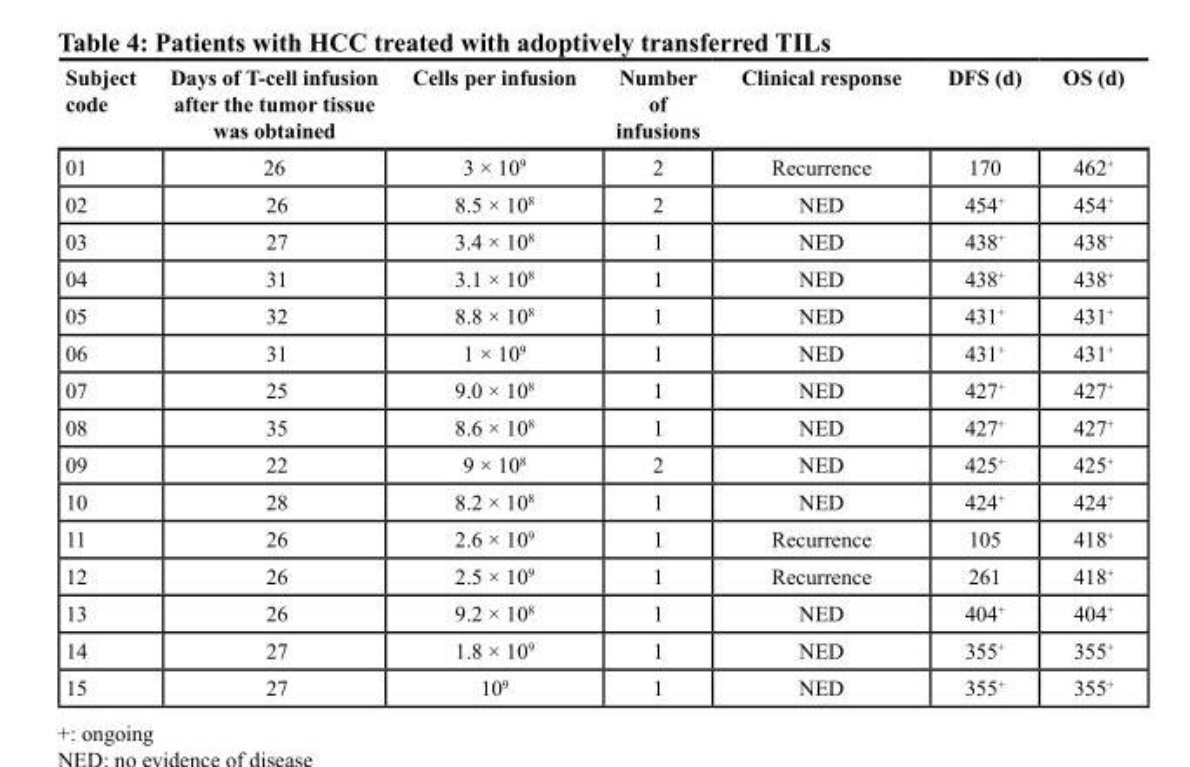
<table><thead><tr><td>Subject code</td><td>Days of T-cell infusion after the tumor tissue was obtained</td><td>Cells per infusion</td><td>Number of infusions</td><td>Clinical response</td><td>DFS (d)</td><td>OS (d)</td></tr></thead><tbody><tr><td>01</td><td>26</td><td>3 × 10<sup>9</sup></td><td>2</td><td>Recurrence</td><td>170</td><td>462<sup>+</sup></td></tr><tr><td>02</td><td>26</td><td>8.5 × 10<sup>8</sup></td><td>2</td><td>NED</td><td>454<sup>+</sup></td><td>454<sup>+</sup></td></tr><tr><td>03</td><td>27</td><td>3.4 × 10<sup>8</sup></td><td>1</td><td>NED</td><td>438<sup>+</sup></td><td>438<sup>+</sup></td></tr><tr><td>04</td><td>31</td><td>3.1 × 10<sup>8</sup></td><td>1</td><td>NED</td><td>438<sup>+</sup></td><td>438<sup>+</sup></td></tr><tr><td>05</td><td>32</td><td>8.8 × 10<sup>8</sup></td><td>1</td><td>NED</td><td>431<sup>+</sup></td><td>431<sup>+</sup></td></tr><tr><td>06</td><td>31</td><td>1 × 10<sup>9</sup></td><td>1</td><td>NED</td><td>431<sup>+</sup></td><td>431<sup>+</sup></td></tr><tr><td>07</td><td>25</td><td>9.0 × 10<sup>8</sup></td><td>1</td><td>NED</td><td>427<sup>+</sup></td><td>427<sup>+</sup></td></tr><tr><td>08</td><td>35</td><td>8.6 × 10<sup>8</sup></td><td>1</td><td>NED</td><td>427<sup>+</sup></td><td>427<sup>+</sup></td></tr><tr><td>09</td><td>22</td><td>9 × 10<sup>8</sup></td><td>2</td><td>NED</td><td>425<sup>+</sup></td><td>425<sup>+</sup></td></tr><tr><td>10</td><td>28</td><td>8.2 × 10<sup>8</sup></td><td>1</td><td>NED</td><td>424<sup>+</sup></td><td>424<sup>+</sup></td></tr><tr><td>11</td><td>26</td><td>2.6 × 10<sup>9</sup></td><td>1</td><td>Recurrence</td><td>105</td><td>418<sup>+</sup></td></tr><tr><td>12</td><td>26</td><td>2.5 × 10<sup>9</sup></td><td>1</td><td>Recurrence</td><td>261</td><td>418<sup>+</sup></td></tr><tr><td>13</td><td>26</td><td>9.2 × 10<sup>8</sup></td><td>1</td><td>NED</td><td>404<sup>+</sup></td><td>404<sup>+</sup></td></tr><tr><td>14</td><td>27</td><td>1.8 × 10<sup>9</sup></td><td>1</td><td>NED</td><td>355<sup>+</sup></td><td>355<sup>+</sup></td></tr><tr><td>15</td><td>27</td><td>10<sup>9</sup></td><td>1</td><td>NED</td><td>355<sup>+</sup></td><td>355<sup>+</sup></td></tr></tbody></table>